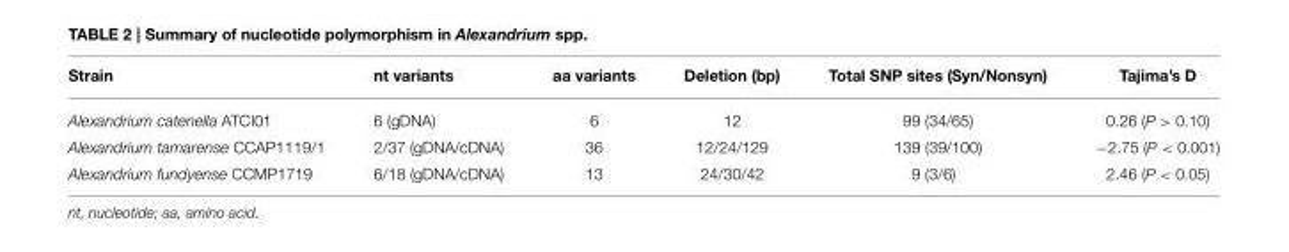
<table><thead><tr><td>Strain</td><td>nt variants</td><td>aa variants</td><td>Deletion (bp)</td><td>Total SNP sites (Syn/Nonsyn)</td><td>Tajima’s D</td></tr></thead><tbody><tr><td>Alexandrium catenella ATCI01</td><td>6 (gDNA)</td><td>6</td><td>12</td><td>99 (34/65)</td><td>0.26 (P &gt; 0.10)</td></tr><tr><td>Alexandrium tamarense CCAP1119/1</td><td>2/37 (gDNA/cDNA)</td><td>36</td><td>12/24/129</td><td>139 (39/100)</td><td>−2.75 (P &lt; 0.001)</td></tr><tr><td>Alexandrium fundyense CCMP1719</td><td>6/18 (gDNA/cDNA)</td><td>13</td><td>24/30/42</td><td>9 (3/6)</td><td>2.46 (P &lt; 0.05)</td></tr></tbody></table>